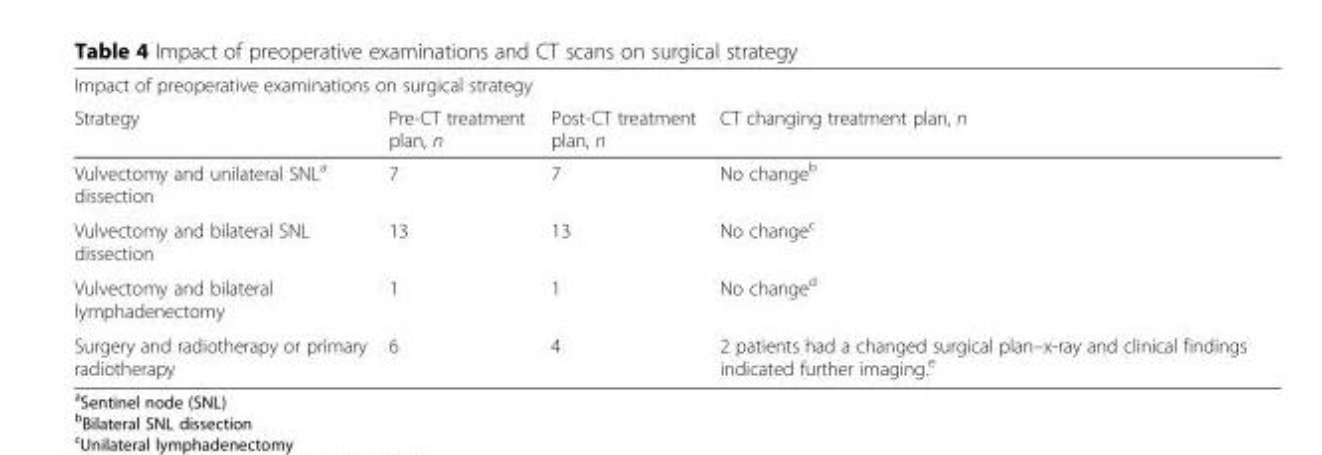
<table><thead><tr><td colspan="4">Impact of preoperative examinations on surgical strategy</td></tr><tr><td>Strategy</td><td>Pre-CT treatment plan, n</td><td>Post-CT treatment plan, n</td><td>CT changing treatment plan, n</td></tr></thead><tbody><tr><td>Vulvectomy and unilateral SNL<sup>a</sup> dissection</td><td>7</td><td>7</td><td>No change<sup>b</sup></td></tr><tr><td>Vulvectomy and bilateral SNL dissection</td><td>13</td><td>13</td><td>No change<sup>c</sup></td></tr><tr><td>Vulvectomy and bilateral lymphadenectomy</td><td>1</td><td>1</td><td>No change<sup>d</sup></td></tr><tr><td>Surgery and radiotherapy or primary radiotherapy</td><td>6</td><td>4</td><td>2 patients had a changed surgical plan–x-ray and clinical findings indicated further imaging.<sup>e</sup></td></tr></tbody></table>